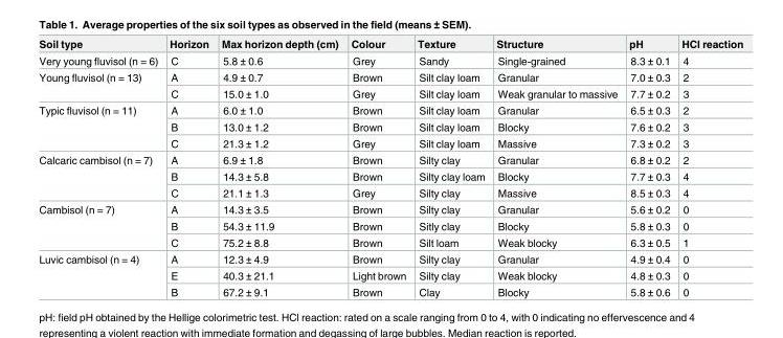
<table><thead><tr><td>Soil type</td><td>Horizon</td><td>Max horizon depth (cm)</td><td>Colour</td><td>Texture</td><td>Structure</td><td>pH</td><td>HCl reaction</td></tr></thead><tbody><tr><td>Very young fluvisol (n = 6)</td><td>C</td><td>5.8 ± 0.6</td><td>Grey</td><td>Sandy</td><td>Single-grained</td><td>8.3 ± 0.1</td><td>4</td></tr><tr><td rowspan="2">Young fluvisol (n = 13)</td><td>A</td><td>4.9 ± 0.7</td><td>Brown</td><td>Silt clay loam</td><td>Granular</td><td>7.0 ± 0.3</td><td>2</td></tr><tr><td>C</td><td>15.0 ± 1.0</td><td>Grey</td><td>Silt clay loam</td><td>Weak granular to massive</td><td>7.7 ± 0.2</td><td>3</td></tr><tr><td rowspan="3">Typic fluvisol (n = 11)</td><td>A</td><td>6.0 ± 1.0</td><td>Brown</td><td>Silt clay loam</td><td>Granular</td><td>6.5 ± 0.3</td><td>2</td></tr><tr><td>B</td><td>13.0 ± 1.2</td><td>Brown</td><td>Silt clay loam</td><td>Blocky</td><td>7.6 ± 0.2</td><td>3</td></tr><tr><td>C</td><td>21.3 ± 1.2</td><td>Grey</td><td>Silt clay loam</td><td>Massive</td><td>7.3 ± 0.2</td><td>3</td></tr><tr><td rowspan="3">Calcaric cambisol (n = 7)</td><td>A</td><td>6.9 ± 1.8</td><td>Brown</td><td>Silty clay</td><td>Granular</td><td>6.8 ± 0.2</td><td>2</td></tr><tr><td>B</td><td>14.3 ± 5.8</td><td>Brown</td><td>Silty clay loam</td><td>Blocky</td><td>7.7 ± 0.3</td><td>4</td></tr><tr><td>C</td><td>21.1 ± 1.3</td><td>Grey</td><td>Silty clay</td><td>Massive</td><td>8.5 ± 0.3</td><td>4</td></tr><tr><td rowspan="3">Cambisol (n = 7)</td><td>A</td><td>14.3 ± 3.5</td><td>Brown</td><td>Silty clay</td><td>Granular</td><td>5.6 ± 0.2</td><td>0</td></tr><tr><td>B</td><td>54.3 ± 11.9</td><td>Brown</td><td>Sitly clay</td><td>Blocky</td><td>5.8 ± 0.3</td><td>0</td></tr><tr><td>C</td><td>75.2 ± 8.8</td><td>Brown</td><td>Silt loam</td><td>Weak blocky</td><td>6.3 ± 0.5</td><td>1</td></tr><tr><td rowspan="3">Luvic cambisol (n = 4)</td><td>A</td><td>12.3 ± 4.9</td><td>Brown</td><td>Silty clay</td><td>Granular</td><td>4.9 ± 0.4</td><td>0</td></tr><tr><td>E</td><td>40.3 ± 21.1</td><td>Light brown</td><td>Silty clay</td><td>Weak blocky</td><td>4.8 ± 0.3</td><td>0</td></tr><tr><td>B</td><td>67.2 ± 9.1</td><td>Brown</td><td>Clay</td><td>Blocky</td><td>5.8 ± 0.6</td><td>0</td></tr></tbody></table>